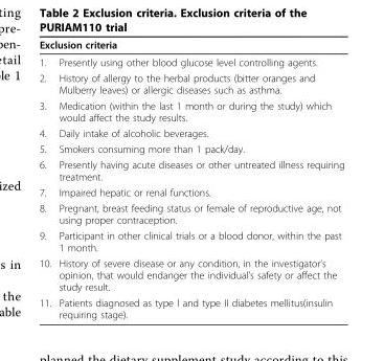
<table><thead><tr><td colspan="2">Exclusion criteria</td></tr><tr><td>1.</td><td>Presently using other blood glucose level controlling agents.</td></tr></thead><tbody><tr><td>2.</td><td>History of allergy to the herbal products (bitter oranges and Mulberry leaves) or allergic diseases such as asthma.</td></tr><tr><td>3.</td><td>Medication (within the last 1 month or during the study) which would affect the study results.</td></tr><tr><td>4.</td><td>Daily intake of alcoholic beverages.</td></tr><tr><td>5.</td><td>Smokers consuming more than 1 pack/day.</td></tr><tr><td>6.</td><td>Presently having acute diseases or other untreated illness requiring treatment.</td></tr><tr><td>7.</td><td>Impaired hepatic or renal functions.</td></tr><tr><td>8.</td><td>Pregnant, breast feeding status or female of reproductive age, not using proper contraception.</td></tr><tr><td>9.</td><td>Participant in other clinical trials or a blood donor, within the past 1 month.</td></tr><tr><td>10.</td><td>History of severe disease or any condition, in the investigator’s opinion, that would endanger the individual’s safety or affect the study result.</td></tr><tr><td>11.</td><td>Patients diagnosed as type I and type II diabetes mellitus(insulin requiring stage).</td></tr></tbody></table>